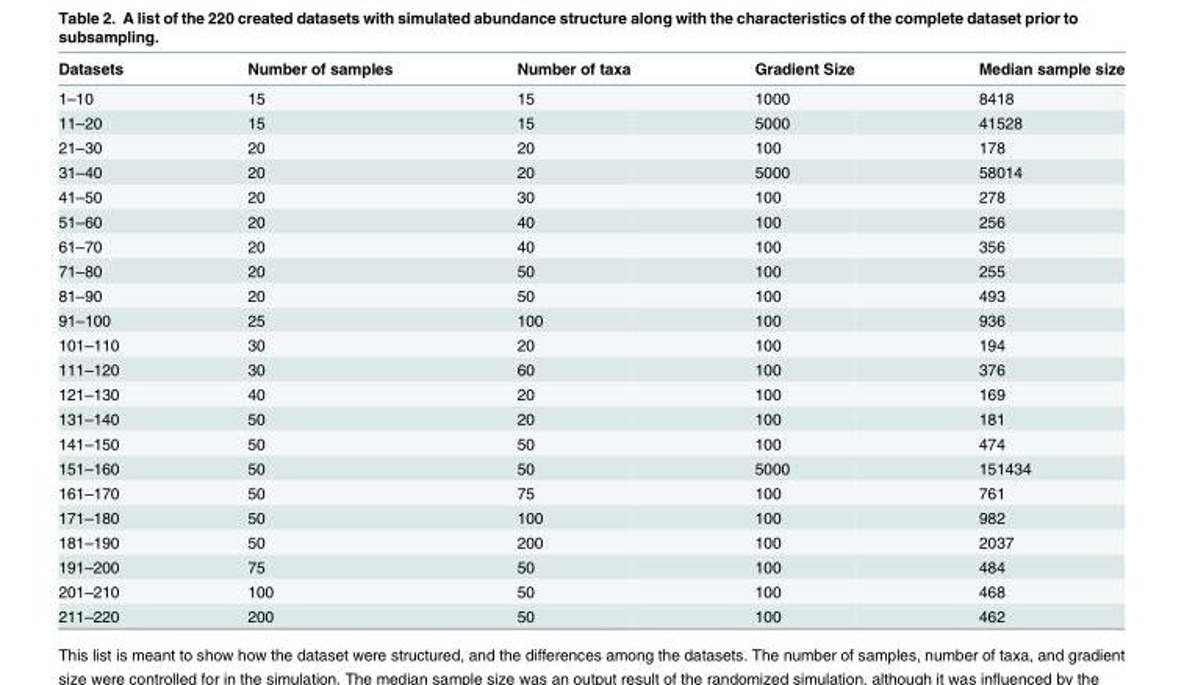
<table><thead><tr><td>Datasets</td><td>Number of samples</td><td>Number of taxa</td><td>Gradient Size</td><td>Median sample size</td></tr></thead><tbody><tr><td>1–10</td><td>15</td><td>15</td><td>1000</td><td>8418</td></tr><tr><td>11–20</td><td>15</td><td>15</td><td>5000</td><td>41528</td></tr><tr><td>21–30</td><td>20</td><td>20</td><td>100</td><td>178</td></tr><tr><td>31–40</td><td>20</td><td>20</td><td>5000</td><td>58014</td></tr><tr><td>41–50</td><td>20</td><td>30</td><td>100</td><td>278</td></tr><tr><td>51–60</td><td>20</td><td>40</td><td>100</td><td>256</td></tr><tr><td>61–70</td><td>20</td><td>40</td><td>100</td><td>356</td></tr><tr><td>71–80</td><td>20</td><td>50</td><td>100</td><td>255</td></tr><tr><td>81–90</td><td>20</td><td>50</td><td>100</td><td>493</td></tr><tr><td>91–100</td><td>25</td><td>100</td><td>100</td><td>936</td></tr><tr><td>101–110</td><td>30</td><td>20</td><td>100</td><td>194</td></tr><tr><td>111–120</td><td>30</td><td>60</td><td>100</td><td>376</td></tr><tr><td>121–130</td><td>40</td><td>20</td><td>100</td><td>169</td></tr><tr><td>131–140</td><td>50</td><td>20</td><td>100</td><td>181</td></tr><tr><td>141–150</td><td>50</td><td>50</td><td>100</td><td>474</td></tr><tr><td>151–160</td><td>50</td><td>50</td><td>5000</td><td>151434</td></tr><tr><td>161–170</td><td>50</td><td>75</td><td>100</td><td>761</td></tr><tr><td>171–180</td><td>50</td><td>100</td><td>100</td><td>982</td></tr><tr><td>181–190</td><td>50</td><td>200</td><td>100</td><td>2037</td></tr><tr><td>191–200</td><td>75</td><td>50</td><td>100</td><td>484</td></tr><tr><td>201–210</td><td>100</td><td>50</td><td>100</td><td>468</td></tr><tr><td>211–220</td><td>200</td><td>50</td><td>100</td><td>462</td></tr></tbody></table>